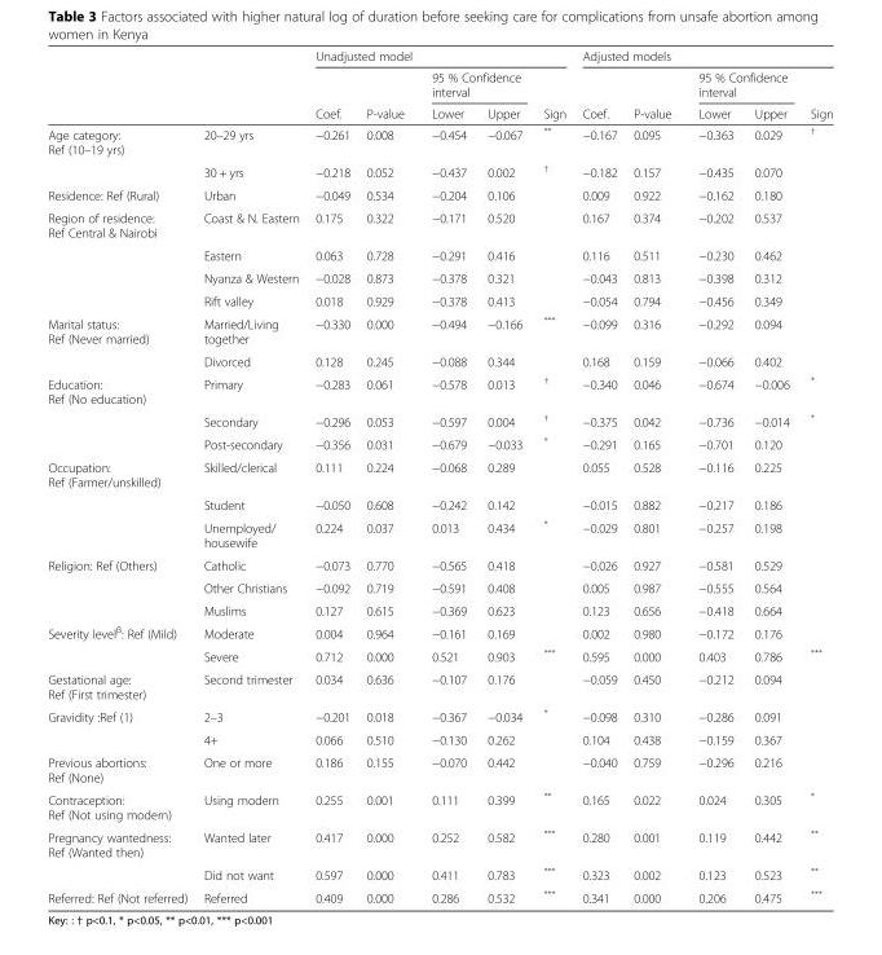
<table><thead><tr><td rowspan="3"></td><td rowspan="3"></td><td colspan="5">Unadjusted model</td><td colspan="5">Adjusted models</td></tr><tr><td rowspan="2">Coef.</td><td rowspan="2">P-value</td><td colspan="2">95 % Confidence interval</td><td rowspan="2">Sign</td><td rowspan="2">Coef.</td><td rowspan="2">P-value</td><td colspan="2">95 % Confidence interval</td><td rowspan="2">Sign</td></tr><tr><td>Lower</td><td>Upper</td><td>Lower</td><td>Upper</td></tr></thead><tbody><tr><td rowspan="2">Age category: Ref (10–19 yrs)</td><td>20–29 yrs</td><td>−0.261</td><td>0.008</td><td>−0.454</td><td>−0.067</td><td>**</td><td>−0.167</td><td>0.095</td><td>−0.363</td><td>0.029</td><td><sup>†</sup></td></tr><tr><td>30 + yrs</td><td>−0.218</td><td>0.052</td><td>−0.437</td><td>0.002</td><td><sup>†</sup></td><td>−0.182</td><td>0.157</td><td>−0.435</td><td>0.070</td><td></td></tr><tr><td>Residence: Ref (Rural)</td><td>Urban</td><td>−0.049</td><td>0.534</td><td>−0.204</td><td>0.106</td><td></td><td>0.009</td><td>0.922</td><td>−0.162</td><td>0.180</td><td></td></tr><tr><td rowspan="4">Region of residence: Ref Central &amp; Nairobi</td><td>Coast &amp; N. Eastern</td><td>0.175</td><td>0.322</td><td>−0.171</td><td>0.520</td><td></td><td>0.167</td><td>0.374</td><td>−0.202</td><td>0.537</td><td></td></tr><tr><td>Eastern</td><td>0.063</td><td>0.728</td><td>−0.291</td><td>0.416</td><td></td><td>0.116</td><td>0.511</td><td>−0.230</td><td>0.462</td><td></td></tr><tr><td>Nyanza &amp; Western</td><td>−0.028</td><td>0.873</td><td>−0.378</td><td>0.321</td><td></td><td>−0.043</td><td>0.813</td><td>−0.398</td><td>0.312</td><td></td></tr><tr><td>Rift valley</td><td>0.018</td><td>0.929</td><td>−0.378</td><td>0.413</td><td></td><td>−0.054</td><td>0.794</td><td>−0.456</td><td>0.349</td><td></td></tr><tr><td rowspan="2">Marital status: Ref (Never married)</td><td>Married/Living together</td><td>−0.330</td><td>0.000</td><td>−0.494</td><td>−0.166</td><td>***</td><td>−0.099</td><td>0.316</td><td>−0.292</td><td>0.094</td><td></td></tr><tr><td>Divorced</td><td>0.128</td><td>0.245</td><td>−0.088</td><td>0.344</td><td></td><td>0.168</td><td>0.159</td><td>−0.066</td><td>0.402</td><td></td></tr><tr><td rowspan="3">Education: Ref (No education)</td><td>Primary</td><td>−0.283</td><td>0.061</td><td>−0.578</td><td>0.013</td><td><sup>†</sup></td><td>−0.340</td><td>0.046</td><td>−0.674</td><td>−0.006</td><td>*</td></tr><tr><td>Secondary</td><td>−0.296</td><td>0.053</td><td>−0.597</td><td>0.004</td><td><sup>†</sup></td><td>−0.375</td><td>0.042</td><td>−0.736</td><td>−0.014</td><td>*</td></tr><tr><td>Post-secondary</td><td>−0.356</td><td>0.031</td><td>−0.679</td><td>−0.033</td><td>*</td><td>−0.291</td><td>0.165</td><td>−0.701</td><td>0.120</td><td></td></tr><tr><td rowspan="3">Occupation: Ref (Farmer/unskilled)</td><td>Skilled/clerical</td><td>0.111</td><td>0.224</td><td>−0.068</td><td>0.289</td><td></td><td>0.055</td><td>0.528</td><td>−0.116</td><td>0.225</td><td></td></tr><tr><td>Student</td><td>−0.050</td><td>0.608</td><td>−0.242</td><td>0.142</td><td></td><td>−0.015</td><td>0.882</td><td>−0.217</td><td>0.186</td><td></td></tr><tr><td>Unemployed/ housewife</td><td>0.224</td><td>0.037</td><td>0.013</td><td>0.434</td><td>*</td><td>−0.029</td><td>0.801</td><td>−0.257</td><td>0.198</td><td></td></tr><tr><td rowspan="3">Religion: Ref (Others)</td><td>Catholic</td><td>−0.073</td><td>0.770</td><td>−0.565</td><td>0.418</td><td></td><td>−0.026</td><td>0.927</td><td>−0.581</td><td>0.529</td><td></td></tr><tr><td>Other Christians</td><td>−0.092</td><td>0.719</td><td>−0.591</td><td>0.408</td><td></td><td>0.005</td><td>0.987</td><td>−0.555</td><td>0.564</td><td></td></tr><tr><td>Muslims</td><td>0.127</td><td>0.615</td><td>−0.369</td><td>0.623</td><td></td><td>0.123</td><td>0.656</td><td>−0.418</td><td>0.664</td><td></td></tr><tr><td rowspan="2">Severity level<sup>β</sup>: Ref (Mild)</td><td>Moderate</td><td>0.004</td><td>0.964</td><td>−0.161</td><td>0.169</td><td></td><td>0.002</td><td>0.980</td><td>−0.172</td><td>0.176</td><td></td></tr><tr><td>Severe</td><td>0.712</td><td>0.000</td><td>0.521</td><td>0.903</td><td>***</td><td>0.595</td><td>0.000</td><td>0.403</td><td>0.786</td><td>***</td></tr><tr><td>Gestational age: Ref (First trimester)</td><td>Second trimester</td><td>0.034</td><td>0.636</td><td>−0.107</td><td>0.176</td><td></td><td>−0.059</td><td>0.450</td><td>−0.212</td><td>0.094</td><td></td></tr><tr><td rowspan="2">Gravidity :Ref (1)</td><td>2–3</td><td>−0.201</td><td>0.018</td><td>−0.367</td><td>−0.034</td><td>*</td><td>−0.098</td><td>0.310</td><td>−0.286</td><td>0.091</td><td></td></tr><tr><td>4+</td><td>0.066</td><td>0.510</td><td>−0.130</td><td>0.262</td><td></td><td>0.104</td><td>0.438</td><td>−0.159</td><td>0.367</td><td></td></tr><tr><td>Previous abortions: Ref (None)</td><td>One or more</td><td>0.186</td><td>0.155</td><td>−0.070</td><td>0.442</td><td></td><td>−0.040</td><td>0.759</td><td>−0.296</td><td>0.216</td><td></td></tr><tr><td>Contraception: Ref (Not using modern)</td><td>Using modern</td><td>0.255</td><td>0.001</td><td>0.111</td><td>0.399</td><td>**</td><td>0.165</td><td>0.022</td><td>0.024</td><td>0.305</td><td>*</td></tr><tr><td rowspan="2">Pregnancy wantedness: Ref (Wanted then)</td><td>Wanted later</td><td>0.417</td><td>0.000</td><td>0.252</td><td>0.582</td><td>***</td><td>0.280</td><td>0.001</td><td>0.119</td><td>0.442</td><td>**</td></tr><tr><td>Did not want</td><td>0.597</td><td>0.000</td><td>0.411</td><td>0.783</td><td>***</td><td>0.323</td><td>0.002</td><td>0.123</td><td>0.523</td><td>**</td></tr><tr><td>Referred: Ref (Not referred)</td><td>Referred</td><td>0.409</td><td>0.000</td><td>0.286</td><td>0.532</td><td>***</td><td>0.341</td><td>0.000</td><td>0.206</td><td>0.475</td><td>***</td></tr></tbody></table>